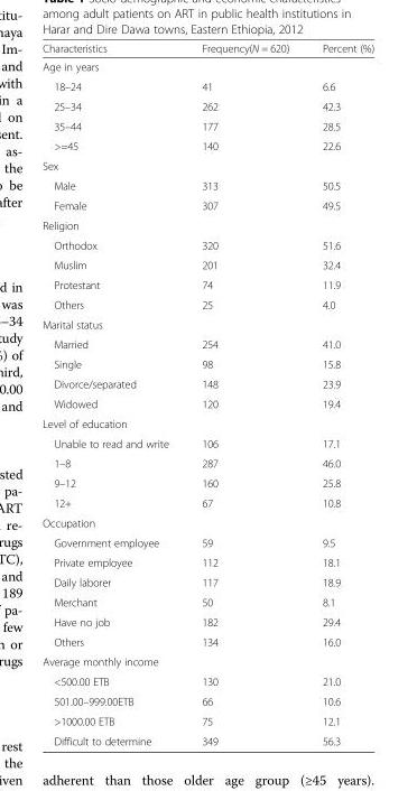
<table><thead><tr><td>Characteristics</td><td>Frequency(N = 620)</td><td>Percent (%)</td></tr></thead><tbody><tr><td colspan="3">Age in years</td></tr><tr><td>18–24</td><td>41</td><td>6.6</td></tr><tr><td>25–34</td><td>262</td><td>42.3</td></tr><tr><td>35–44</td><td>177</td><td>28.5</td></tr><tr><td>&gt;=45</td><td>140</td><td>22.6</td></tr><tr><td colspan="3">Sex</td></tr><tr><td>Male</td><td>313</td><td>50.5</td></tr><tr><td>Female</td><td>307</td><td>49.5</td></tr><tr><td colspan="3">Religion</td></tr><tr><td>Orthodox</td><td>320</td><td>51.6</td></tr><tr><td>Muslim</td><td>201</td><td>32.4</td></tr><tr><td>Protestant</td><td>74</td><td>11.9</td></tr><tr><td>Others</td><td>25</td><td>4.0</td></tr><tr><td colspan="3">Marital status</td></tr><tr><td>Married</td><td>254</td><td>41.0</td></tr><tr><td>Single</td><td>98</td><td>15.8</td></tr><tr><td>Divorce/separated</td><td>148</td><td>23.9</td></tr><tr><td>Widowed</td><td>120</td><td>19.4</td></tr><tr><td colspan="3">Level of education</td></tr><tr><td>Unable to read and write</td><td>106</td><td>17.1</td></tr><tr><td>1–8</td><td>287</td><td>46.0</td></tr><tr><td>9–12</td><td>160</td><td>25.8</td></tr><tr><td>12+</td><td>67</td><td>10.8</td></tr><tr><td colspan="3">Occupation</td></tr><tr><td>Government employee</td><td>59</td><td>9.5</td></tr><tr><td>Private employee</td><td>112</td><td>18.1</td></tr><tr><td>Daily laborer</td><td>117</td><td>18.9</td></tr><tr><td>Merchant</td><td>50</td><td>8.1</td></tr><tr><td>Have no job</td><td>182</td><td>29.4</td></tr><tr><td>Others</td><td>134</td><td>16.0</td></tr><tr><td colspan="3">Average monthly income</td></tr><tr><td>&lt;500.00 ETB</td><td>130</td><td>21.0</td></tr><tr><td>501.00–999.00ETB</td><td>66</td><td>10.6</td></tr><tr><td>&gt;1000.00 ETB</td><td>75</td><td>12.1</td></tr><tr><td>Difficult to determine</td><td>349</td><td>56.3</td></tr></tbody></table>